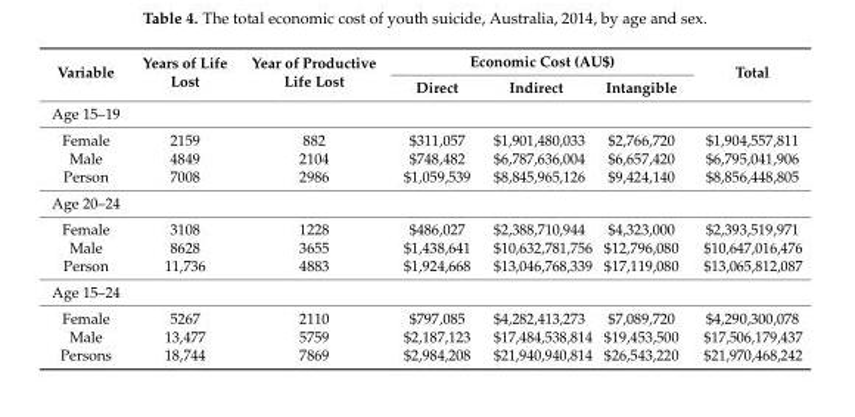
<table><thead><tr><td rowspan="2">Variable</td><td rowspan="2">Years of Life Lost</td><td rowspan="2">Year of Productive Life Lost</td><td colspan="3">Economic Cost (AU$)</td><td rowspan="2">Total</td></tr><tr><td>Direct</td><td>Indirect</td><td>Intangible</td></tr></thead><tbody><tr><td colspan="7">Age 15–19</td></tr><tr><td>Female</td><td>2159</td><td>882</td><td>$311,057</td><td>$1,901,480,033</td><td>$2,766,720</td><td>$1,904,557,811</td></tr><tr><td>Male</td><td>4849</td><td>2104</td><td>$748,482</td><td>$6,787,636,004</td><td>$6,657,420</td><td>$6,795,041,906</td></tr><tr><td>Person</td><td>7008</td><td>2986</td><td>$1,059,539</td><td>$8,845,965,126</td><td>$9,424,140</td><td>$8,856,448,805</td></tr><tr><td colspan="7">Age 20–24</td></tr><tr><td>Female</td><td>3108</td><td>1228</td><td>$486,027</td><td>$2,388,710,944</td><td>$4,323,000</td><td>$2,393,519,971</td></tr><tr><td>Male</td><td>8628</td><td>3655</td><td>$1,438,641</td><td>$10,632,781,756</td><td>$12,796,080</td><td>$10,647,016,476</td></tr><tr><td>Person</td><td>11,736</td><td>4883</td><td>$1,924,668</td><td>$13,046,768,339</td><td>$17,119,080</td><td>$13,065,812,087</td></tr><tr><td colspan="7">Age 15–24</td></tr><tr><td>Female</td><td>5267</td><td>2110</td><td>$797,085</td><td>$4,282,413,273</td><td>$7,089,720</td><td>$4,290,300,078</td></tr><tr><td>Male</td><td>13,477</td><td>5759</td><td>$2,187,123</td><td>$17,484,538,814</td><td>$19,453,500</td><td>$17,506,179,437</td></tr><tr><td>Persons</td><td>18,744</td><td>7869</td><td>$2,984,208</td><td>$21,940,940,814</td><td>$26,543,220</td><td>$21,970,468,242</td></tr></tbody></table>